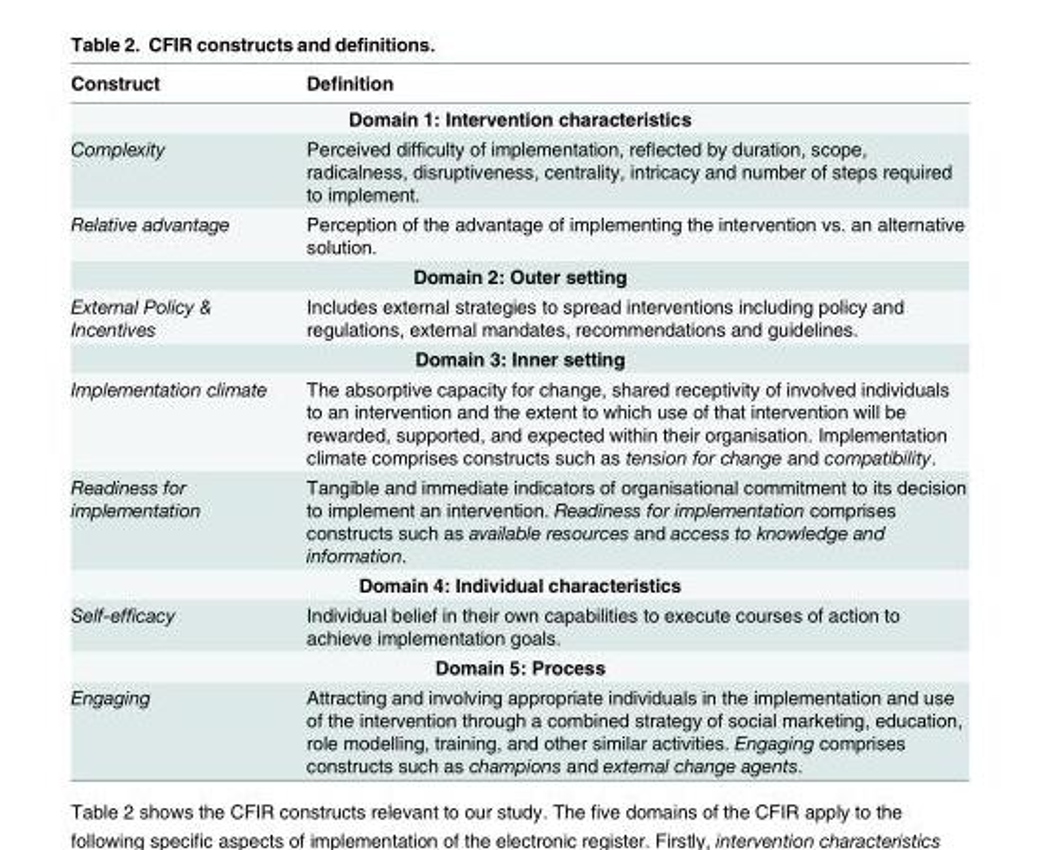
<table><thead><tr><td>Construct</td><td>Definition</td></tr></thead><tbody><tr><td colspan="2">Domain 1: Intervention characteristics</td></tr><tr><td>Complexity</td><td>Perceived difficulty of implementation, reflected by duration, scope, radicalness, disruptiveness, centrality, intricacy and number of steps required to implement.</td></tr><tr><td>Relative advantage</td><td>Perception of the advantage of implementing the intervention vs. an alternative solution.</td></tr><tr><td colspan="2">Domain 2: Outer setting</td></tr><tr><td>External Policy &amp; Incentives</td><td>Includes external strategies to spread interventions including policy and regulations, external mandates, recommendations and guidelines.</td></tr><tr><td colspan="2">Domain 3: Inner setting</td></tr><tr><td>Implementation climate</td><td>The absorptive capacity for change, shared receptivity of involved individuals to an intervention and the extent to which use of that intervention will be rewarded, supported, and expected within their organisation. Implementation climate comprises constructs such as tension for change and compatibility.</td></tr><tr><td>Readiness for implementation</td><td>Tangible and immediate indicators of organisational commitment to its decision to implement an intervention. Readiness for implementation comprises constructs such as available resources and access to knowledge and information.</td></tr><tr><td colspan="2">Domain 4: Individual characteristics</td></tr><tr><td>Self-efficacy</td><td>Individual belief in their own capabilities to execute courses of action to achieve implementation goals.</td></tr><tr><td colspan="2">Domain 5: Process</td></tr><tr><td>Engaging</td><td>Attracting and involving appropriate individuals in the implementation and use of the intervention through a combined strategy of social marketing, education, role modelling, training, and other similar activities. Engaging comprises constructs such as champions and external change agents.</td></tr></tbody></table>